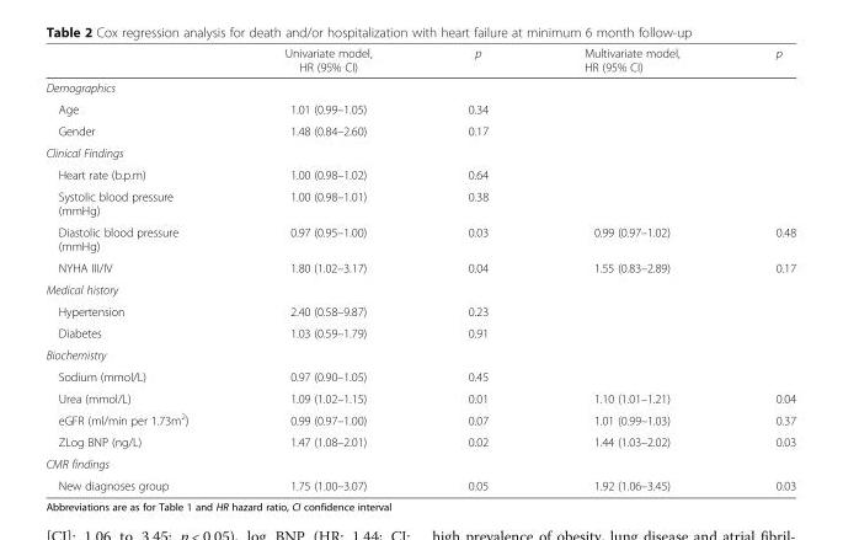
<table><thead><tr><td></td><td>Univariate model, HR (95% CI)</td><td>p</td><td>Multivariate model, HR (95% CI)</td><td>p</td></tr></thead><tbody><tr><td colspan="5">Demographics</td></tr><tr><td>Age</td><td>1.01 (0.99–1.05)</td><td>0.34</td><td></td><td></td></tr><tr><td>Gender</td><td>1.48 (0.84–2.60)</td><td>0.17</td><td></td><td></td></tr><tr><td colspan="5">Clinical Findings</td></tr><tr><td>Heart rate (b.p.m)</td><td>1.00 (0.98–1.02)</td><td>0.64</td><td></td><td></td></tr><tr><td>Systolic blood pressure (mmHg)</td><td>1.00 (0.98–1.01)</td><td>0.38</td><td></td><td></td></tr><tr><td>Diastolic blood pressure (mmHg)</td><td>0.97 (0.95–1.00)</td><td>0.03</td><td>0.99 (0.97–1.02)</td><td>0.48</td></tr><tr><td>NYHA III/IV</td><td>1.80 (1.02–3.17)</td><td>0.04</td><td>1.55 (0.83–2.89)</td><td>0.17</td></tr><tr><td colspan="5">Medical history</td></tr><tr><td>Hypertension</td><td>2.40 (0.58–9.87)</td><td>0.23</td><td></td><td></td></tr><tr><td>Diabetes</td><td>1.03 (0.59–1.79)</td><td>0.91</td><td></td><td></td></tr><tr><td colspan="5">Biochemistry</td></tr><tr><td>Sodium (mmol/L)</td><td>0.97 (0.90–1.05)</td><td>0.45</td><td></td><td></td></tr><tr><td>Urea (mmol/L)</td><td>1.09 (1.02–1.15)</td><td>0.01</td><td>1.10 (1.01–1.21)</td><td>0.04</td></tr><tr><td>eGFR (ml/min per 1.73m<sup>2</sup>)</td><td>0.99 (0.97–1.00)</td><td>0.07</td><td>1.01 (0.99–1.03)</td><td>0.37</td></tr><tr><td>ZLog BNP (ng/L)</td><td>1.47 (1.08–2.01)</td><td>0.02</td><td>1.44 (1.03–2.02)</td><td>0.03</td></tr><tr><td colspan="5">CMR findings</td></tr><tr><td>New diagnoses group</td><td>1.75 (1.00–3.07)</td><td>0.05</td><td>1.92 (1.06–3.45)</td><td>0.03</td></tr></tbody></table>